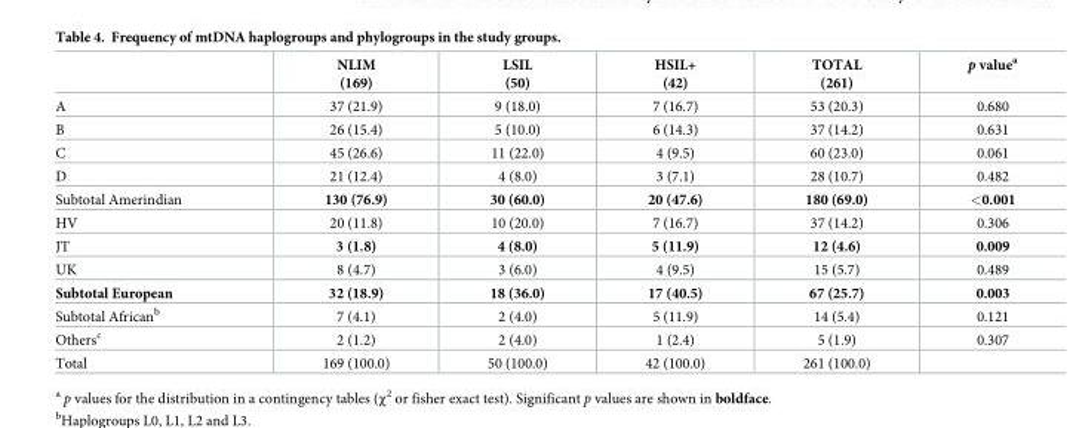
<table><thead><tr><td></td><td>NLIM (169)</td><td>LSIL (50)</td><td>HSIL+ (42)</td><td>TOTAL (261)</td><td>p value<sup>a</sup></td></tr></thead><tbody><tr><td>A</td><td>37 (21.9)</td><td>9 (18.0)</td><td>7 (16.7)</td><td>53 (20.3)</td><td>0.680</td></tr><tr><td>B</td><td>26 (15.4)</td><td>5 (10.0)</td><td>6 (14.3)</td><td>37 (14.2)</td><td>0.631</td></tr><tr><td>C</td><td>45 (26.6)</td><td>11 (22.0)</td><td>4 (9.5)</td><td>60 (23.0)</td><td>0.061</td></tr><tr><td>D</td><td>21 (12.4)</td><td>4 (8.0)</td><td>3 (7.1)</td><td>28 (10.7)</td><td>0.482</td></tr><tr><td>Subtotal Amerindian</td><td>130 (76.9)</td><td>30 (60.0)</td><td>20 (47.6)</td><td>180 (69.0)</td><td>&lt;0.001</td></tr><tr><td>HV</td><td>20 (11.8)</td><td>10 (20.0)</td><td>7 (16.7)</td><td>37 (14.2)</td><td>0.306</td></tr><tr><td>JT</td><td>3 (1.8)</td><td>4 (8.0)</td><td>5 (11.9)</td><td>12 (4.6)</td><td>0.009</td></tr><tr><td>UK</td><td>8 (4.7)</td><td>3 (6.0)</td><td>4 (9.5)</td><td>15 (5.7)</td><td>0.489</td></tr><tr><td>Subtotal European</td><td>32 (18.9)</td><td>18 (36.0)</td><td>17 (40.5)</td><td>67 (25.7)</td><td>0.003</td></tr><tr><td>Subtotal African<sup>b</sup></td><td>7 (4.1)</td><td>2 (4.0)</td><td>5 (11.9)</td><td>14 (5.4)</td><td>0.121</td></tr><tr><td>Others<sup>c</sup></td><td>2 (1.2)</td><td>2 (4.0)</td><td>1 (2.4)</td><td>5 (1.9)</td><td>0.307</td></tr><tr><td>Total</td><td>169 (100.0)</td><td>50 (100.0)</td><td>42 (100.0)</td><td>261 (100.0)</td><td></td></tr></tbody></table>